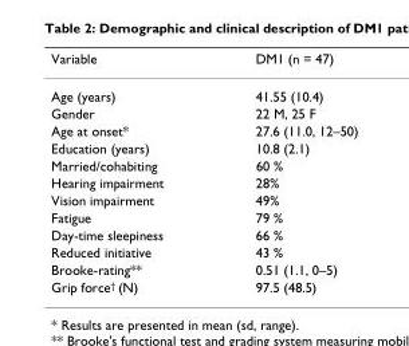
<table><thead><tr><td>Variable</td><td>DM1 (n = 47)</td></tr></thead><tbody><tr><td>Age (years)</td><td>41.55 (10.4)</td></tr><tr><td>Gender</td><td>22 M, 25 F</td></tr><tr><td>Age at onset*</td><td>27.6 (11.0, 12–50)</td></tr><tr><td>Education (years)</td><td>10.8 (2.1)</td></tr><tr><td>Married/cohabiting</td><td>60 %</td></tr><tr><td>Hearing impairment</td><td>28%</td></tr><tr><td>Vision impairment</td><td>49%</td></tr><tr><td>Fatigue</td><td>79 %</td></tr><tr><td>Day-time sleepiness</td><td>66 %</td></tr><tr><td>Reduced initiative</td><td>43 %</td></tr><tr><td>Brooke-rating**</td><td>0.51 (1.1, 0–5)</td></tr><tr><td>Grip force<sup>†</sup> (N)</td><td>97.5 (48.5)</td></tr></tbody></table>